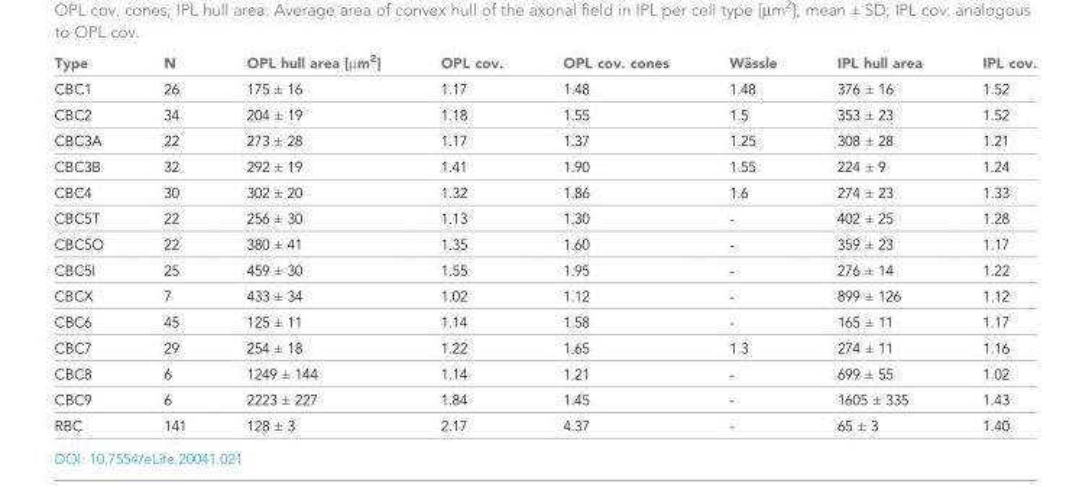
<table><thead><tr><td>Type</td><td>N</td><td>OPL hull area [µm<sup>2</sup>]</td><td>OPL cov.</td><td>OPL cov. cones</td><td>Wa¨ssle</td><td>IPL hull area</td><td>IPL cov.</td></tr></thead><tbody><tr><td>CBC1</td><td>26</td><td>175 ± 16</td><td>1.17</td><td>1.48</td><td>1.48</td><td>376 ± 16</td><td>1.52</td></tr><tr><td>CBC2</td><td>34</td><td>204 ± 19</td><td>1.18</td><td>1.55</td><td>1.5</td><td>353 ± 23</td><td>1.52</td></tr><tr><td>CBC3A</td><td>22</td><td>273 ± 28</td><td>1.17</td><td>1.37</td><td>1.25</td><td>308 ± 28</td><td>1.21</td></tr><tr><td>CBC3B</td><td>32</td><td>292 ± 19</td><td>1.41</td><td>1.90</td><td>1.55</td><td>224 ± 9</td><td>1.24</td></tr><tr><td>CBC4</td><td>30</td><td>302 ± 20</td><td>1.32</td><td>1.86</td><td>1.6</td><td>274 ± 23</td><td>1.33</td></tr><tr><td>CBC5T</td><td>22</td><td>256 ± 30</td><td>1.13</td><td>1.30</td><td>-</td><td>402 ± 25</td><td>1.28</td></tr><tr><td>CBC5O</td><td>22</td><td>380 ± 41</td><td>1.35</td><td>1.60</td><td>-</td><td>359 ± 23</td><td>1.17</td></tr><tr><td>CBC5I</td><td>25</td><td>459 ± 30</td><td>1.55</td><td>1.95</td><td>-</td><td>276 ± 14</td><td>1.22</td></tr><tr><td>CBCX</td><td>7</td><td>433 ± 34</td><td>1.02</td><td>1.12</td><td>-</td><td>899 ± 126</td><td>1.12</td></tr><tr><td>CBC6</td><td>45</td><td>125 ± 11</td><td>1.14</td><td>1.58</td><td>-</td><td>165 ± 11</td><td>1.17</td></tr><tr><td>CBC7</td><td>29</td><td>254 ± 18</td><td>1.22</td><td>1.65</td><td>1.3</td><td>274 ± 11</td><td>1.16</td></tr><tr><td>CBC8</td><td>6</td><td>1249 ± 144</td><td>1.14</td><td>1.21</td><td>-</td><td>699 ± 55</td><td>1.02</td></tr><tr><td>CBC9</td><td>6</td><td>2223 ± 227</td><td>1.84</td><td>1.45</td><td>-</td><td>1605 ± 335</td><td>1.43</td></tr><tr><td>RBC</td><td>141</td><td>128 ± 3</td><td>2.17</td><td>4.37</td><td>-</td><td>65 ± 3</td><td>1.40</td></tr></tbody></table>